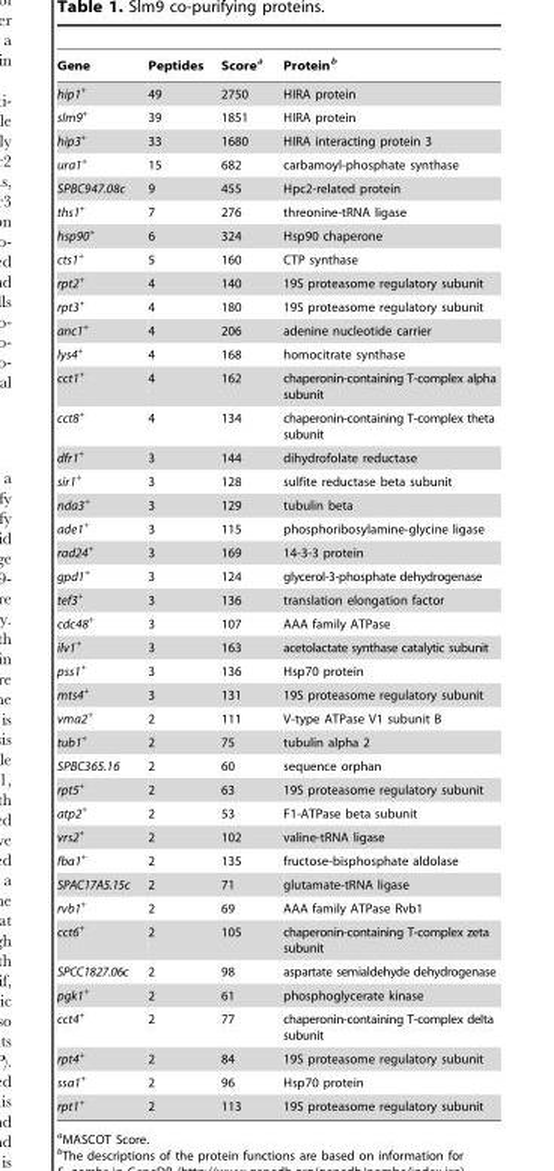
<table><thead><tr><td>Gene</td><td>Peptides</td><td>Score<sup>a</sup></td><td>Protein<sup>b</sup></td></tr></thead><tbody><tr><td>hip1<sup>+</sup></td><td>49</td><td>2750</td><td>HIRA protein</td></tr><tr><td>slm9<sup>+</sup></td><td>39</td><td>1851</td><td>HIRA protein</td></tr><tr><td>hip3<sup>+</sup></td><td>33</td><td>1680</td><td>HIRA interacting protein 3</td></tr><tr><td>ura1<sup>+</sup></td><td>15</td><td>682</td><td>carbamoyl-phosphate synthase</td></tr><tr><td>SPBC947.08c</td><td>9</td><td>455</td><td>Hpc2-related protein</td></tr><tr><td>ths1<sup>+</sup></td><td>7</td><td>276</td><td>threonine-tRNA ligase</td></tr><tr><td>hsp90<sup>+</sup></td><td>6</td><td>324</td><td>Hsp90 chaperone</td></tr><tr><td>cts1<sup>+</sup></td><td>5</td><td>160</td><td>CTP synthase</td></tr><tr><td>rpt2<sup>+</sup></td><td>4</td><td>140</td><td>19S proteasome regulatory subunit</td></tr><tr><td>rpt3<sup>+</sup></td><td>4</td><td>180</td><td>19S proteasome regulatory subunit</td></tr><tr><td>anc1<sup>+</sup></td><td>4</td><td>206</td><td>adenine nucleotide carrier</td></tr><tr><td>lys4<sup>+</sup></td><td>4</td><td>168</td><td>homocitrate synthase</td></tr><tr><td>cct1<sup>+</sup></td><td>4</td><td>162</td><td>chaperonin-containing T-complex alpha subunit</td></tr><tr><td>cct8<sup>+</sup></td><td>4</td><td>134</td><td>chaperonin-containing T-complex theta subunit</td></tr><tr><td>dfr1<sup>+</sup></td><td>3</td><td>144</td><td>dihydrofolate reductase</td></tr><tr><td>sir1<sup>+</sup></td><td>3</td><td>128</td><td>sulfite reductase beta subunit</td></tr><tr><td>nda3<sup>+</sup></td><td>3</td><td>129</td><td>tubulin beta</td></tr><tr><td>ade1<sup>+</sup></td><td>3</td><td>115</td><td>phosphoribosylamine-glycine ligase</td></tr><tr><td>rad24<sup>+</sup></td><td>3</td><td>169</td><td>14-3-3 protein</td></tr><tr><td>gpd1<sup>+</sup></td><td>3</td><td>124</td><td>glycerol-3-phosphate dehydrogenase</td></tr><tr><td>tef3<sup>+</sup></td><td>3</td><td>136</td><td>translation elongation factor</td></tr><tr><td>cdc48<sup>+</sup></td><td>3</td><td>107</td><td>AAA family ATPase</td></tr><tr><td>ilv1<sup>+</sup></td><td>3</td><td>163</td><td>acetolactate synthase catalytic subunit</td></tr><tr><td>pss1<sup>+</sup></td><td>3</td><td>136</td><td>Hsp70 protein</td></tr><tr><td>mts4<sup>+</sup></td><td>3</td><td>131</td><td>19S proteasome regulatory subunit</td></tr><tr><td>vma2<sup>+</sup></td><td>2</td><td>111</td><td>V-type ATPase V1 subunit B</td></tr><tr><td>tub1<sup>+</sup></td><td>2</td><td>75</td><td>tubulin alpha 2</td></tr><tr><td>SPBC365.16</td><td>2</td><td>60</td><td>sequence orphan</td></tr><tr><td>rpt5<sup>+</sup></td><td>2</td><td>63</td><td>19S proteasome regulatory subunit</td></tr><tr><td>atp2<sup>+</sup></td><td>2</td><td>53</td><td>F1-ATPase beta subunit</td></tr><tr><td>vrs2<sup>+</sup></td><td>2</td><td>102</td><td>valine-tRNA ligase</td></tr><tr><td>fba1<sup>+</sup></td><td>2</td><td>135</td><td>fructose-bisphosphate aldolase</td></tr><tr><td>SPAC17A5.15c</td><td>2</td><td>71</td><td>glutamate-tRNA ligase</td></tr><tr><td>rvb1<sup>+</sup></td><td>2</td><td>69</td><td>AAA family ATPase Rvb1</td></tr><tr><td>cct6<sup>+</sup></td><td>2</td><td>105</td><td>chaperonin-containing T-complex zeta subunit</td></tr><tr><td>SPCC1827.06c</td><td>2</td><td>98</td><td>aspartate semialdehyde dehydrogenase</td></tr><tr><td>pgk1<sup>+</sup></td><td>2</td><td>61</td><td>phosphoglycerate kinase</td></tr><tr><td>cct4<sup>+</sup></td><td>2</td><td>77</td><td>chaperonin-containing T-complex delta subunit</td></tr><tr><td>rpt4<sup>+</sup></td><td>2</td><td>84</td><td>19S proteasome regulatory subunit</td></tr><tr><td>ssa1<sup>+</sup></td><td>2</td><td>96</td><td>Hsp70 protein</td></tr><tr><td>rpt1<sup>+</sup></td><td>2</td><td>113</td><td>19S proteasome regulatory subunit</td></tr></tbody></table>